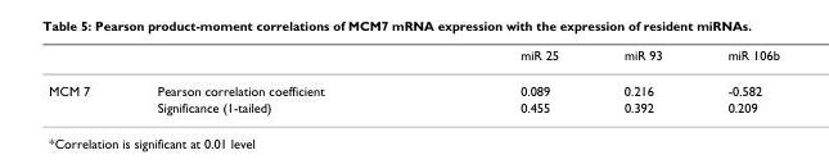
<table><thead><tr><td></td><td></td><td>miR 25</td><td>miR 93</td><td>miR 106b</td></tr></thead><tbody><tr><td rowspan="2">MCM 7</td><td>Pearson correlation coefficient</td><td>0.089</td><td>0.216</td><td>-0.582</td></tr><tr><td>Significance (1-tailed)</td><td>0.455</td><td>0.392</td><td>0.209</td></tr></tbody></table>